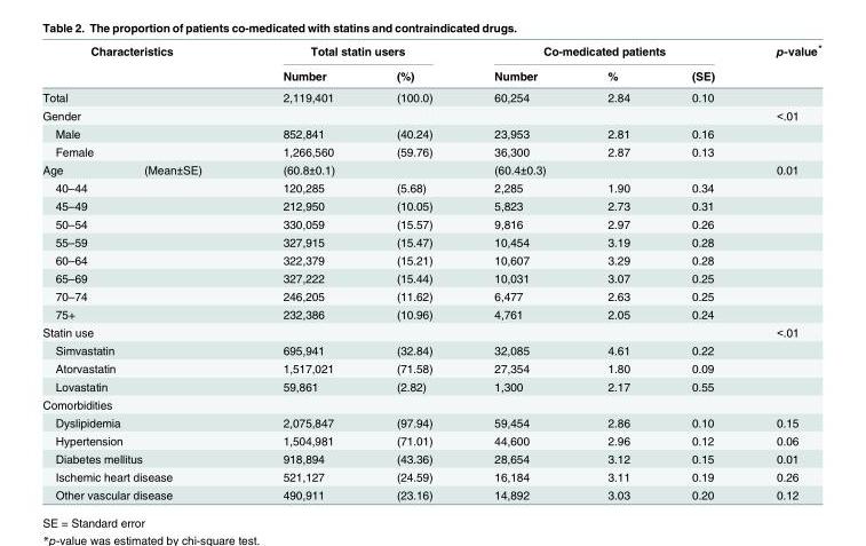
<table><thead><tr><td colspan="2">Characteristics</td><td colspan="2">Total statin users</td><td colspan="3">Co-medicated patients</td><td rowspan="2">p-value*</td></tr><tr><td></td><td></td><td>Number</td><td>(%)</td><td>Number</td><td>%</td><td>(SE)</td></tr></thead><tbody><tr><td colspan="2">Total</td><td>2,119,401</td><td>(100.0)</td><td>60,254</td><td>2.84</td><td>0.10</td><td></td></tr><tr><td colspan="2">Gender</td><td></td><td></td><td></td><td></td><td></td><td>&lt;.01</td></tr><tr><td colspan="2">Male</td><td>852,841</td><td>(40.24)</td><td>23,953</td><td>2.81</td><td>0.16</td><td></td></tr><tr><td colspan="2">Female</td><td>1,266,560</td><td>(59.76)</td><td>36,300</td><td>2.87</td><td>0.13</td><td></td></tr><tr><td>Age</td><td>(Mean±SE)</td><td>(60.8±0.1)</td><td></td><td>(60.4±0.3)</td><td></td><td></td><td>0.01</td></tr><tr><td colspan="2">40–44</td><td>120,285</td><td>(5.68)</td><td>2,285</td><td>1.90</td><td>0.34</td><td></td></tr><tr><td colspan="2">45–49</td><td>212,950</td><td>(10.05)</td><td>5,823</td><td>2.73</td><td>0.31</td><td></td></tr><tr><td colspan="2">50–54</td><td>330,059</td><td>(15.57)</td><td>9,816</td><td>2.97</td><td>0.26</td><td></td></tr><tr><td colspan="2">55–59</td><td>327,915</td><td>(15.47)</td><td>10,454</td><td>3.19</td><td>0.28</td><td></td></tr><tr><td colspan="2">60–64</td><td>322,379</td><td>(15.21)</td><td>10,607</td><td>3.29</td><td>0.28</td><td></td></tr><tr><td colspan="2">65–69</td><td>327,222</td><td>(15.44)</td><td>10,031</td><td>3.07</td><td>0.25</td><td></td></tr><tr><td colspan="2">70–74</td><td>246,205</td><td>(11.62)</td><td>6,477</td><td>2.63</td><td>0.25</td><td></td></tr><tr><td colspan="2">75+</td><td>232,386</td><td>(10.96)</td><td>4,761</td><td>2.05</td><td>0.24</td><td></td></tr><tr><td colspan="2">Statin use</td><td></td><td></td><td></td><td></td><td></td><td>&lt;.01</td></tr><tr><td colspan="2">Simvastatin</td><td>695,941</td><td>(32.84)</td><td>32,085</td><td>4.61</td><td>0.22</td><td></td></tr><tr><td colspan="2">Atorvastatin</td><td>1,517,021</td><td>(71.58)</td><td>27,354</td><td>1.80</td><td>0.09</td><td></td></tr><tr><td colspan="2">Lovastatin</td><td>59,861</td><td>(2.82)</td><td>1,300</td><td>2.17</td><td>0.55</td><td></td></tr><tr><td colspan="8">Comorbidities</td></tr><tr><td colspan="2">Dyslipidemia</td><td>2,075,847</td><td>(97.94)</td><td>59,454</td><td>2.86</td><td>0.10</td><td>0.15</td></tr><tr><td colspan="2">Hypertension</td><td>1,504,981</td><td>(71.01)</td><td>44,600</td><td>2.96</td><td>0.12</td><td>0.06</td></tr><tr><td colspan="2">Diabetes mellitus</td><td>918,894</td><td>(43.36)</td><td>28,654</td><td>3.12</td><td>0.15</td><td>0.01</td></tr><tr><td colspan="2">Ischemic heart disease</td><td>521,127</td><td>(24.59)</td><td>16,184</td><td>3.11</td><td>0.19</td><td>0.26</td></tr><tr><td colspan="2">Other vascular disease</td><td>490,911</td><td>(23.16)</td><td>14,892</td><td>3.03</td><td>0.20</td><td>0.12</td></tr></tbody></table>